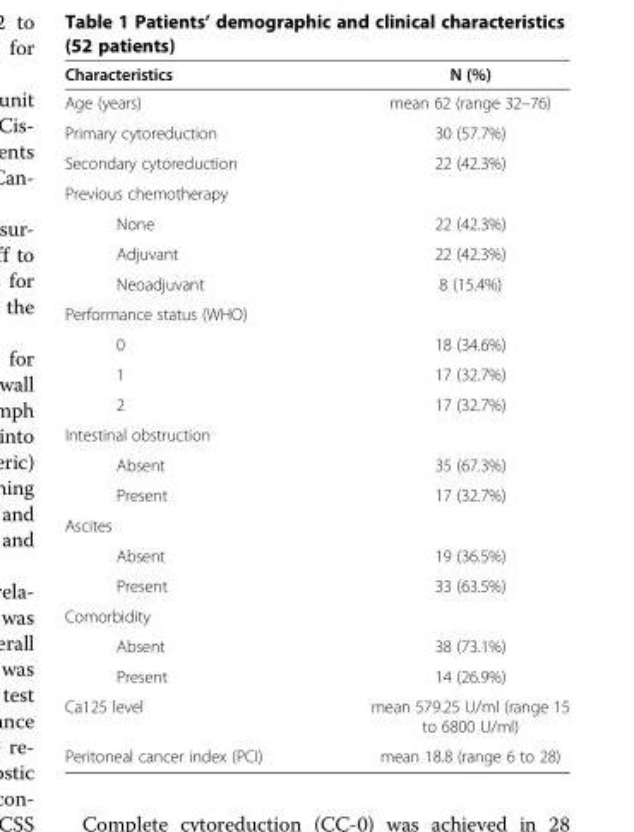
<table><thead><tr><td>Characteristics</td><td>N (%)</td></tr></thead><tbody><tr><td>Age (years)</td><td>mean 62 (range 32–76)</td></tr><tr><td>Primary cytoreduction</td><td>30 (57.7%)</td></tr><tr><td>Secondary cytoreduction</td><td>22 (42.3%)</td></tr><tr><td colspan="2">Previous chemotherapy</td></tr><tr><td>None</td><td>22 (42.3%)</td></tr><tr><td>Adjuvant</td><td>22 (42.3%)</td></tr><tr><td>Neoadjuvant</td><td>8 (15.4%)</td></tr><tr><td colspan="2">Performance status (WHO)</td></tr><tr><td>0</td><td>18 (34.6%)</td></tr><tr><td>1</td><td>17 (32.7%)</td></tr><tr><td>2</td><td>17 (32.7%)</td></tr><tr><td colspan="2">Intestinal obstruction</td></tr><tr><td>Absent</td><td>35 (67.3%)</td></tr><tr><td>Present</td><td>17 (32.7%)</td></tr><tr><td colspan="2">Ascites</td></tr><tr><td>Absent</td><td>19 (36.5%)</td></tr><tr><td>Present</td><td>33 (63.5%)</td></tr><tr><td colspan="2">Comorbidity</td></tr><tr><td>Absent</td><td>38 (73.1%)</td></tr><tr><td>Present</td><td>14 (26.9%)</td></tr><tr><td>Ca125 level</td><td>mean 579.25 U/ml (range 15 to 6800 U/ml)</td></tr><tr><td>Peritoneal cancer index (PCI)</td><td>mean 18.8 (range 6 to 28)</td></tr></tbody></table>